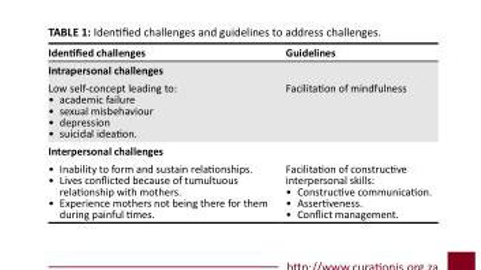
<table><thead><tr><td>Identified challenges</td><td>Guidelines</td></tr></thead><tbody><tr><td colspan="2">Intrapersonal challenges</td></tr><tr><td>Low self-concept leading to: • academic failure • sexual misbehaviour • depression • suicidal ideation.</td><td>Facilitation of mindfulness</td></tr><tr><td colspan="2">Interpersonal challenges</td></tr><tr><td>• Inability to form and sustain relationships. • Lives conflicted because of tumultuous relationship with mothers. • Experience mothers not being there for them during painful times.</td><td>Facilitation of constructive interpersonal skills: • Constructive communication. • Assertiveness. • Conflict management.</td></tr></tbody></table>